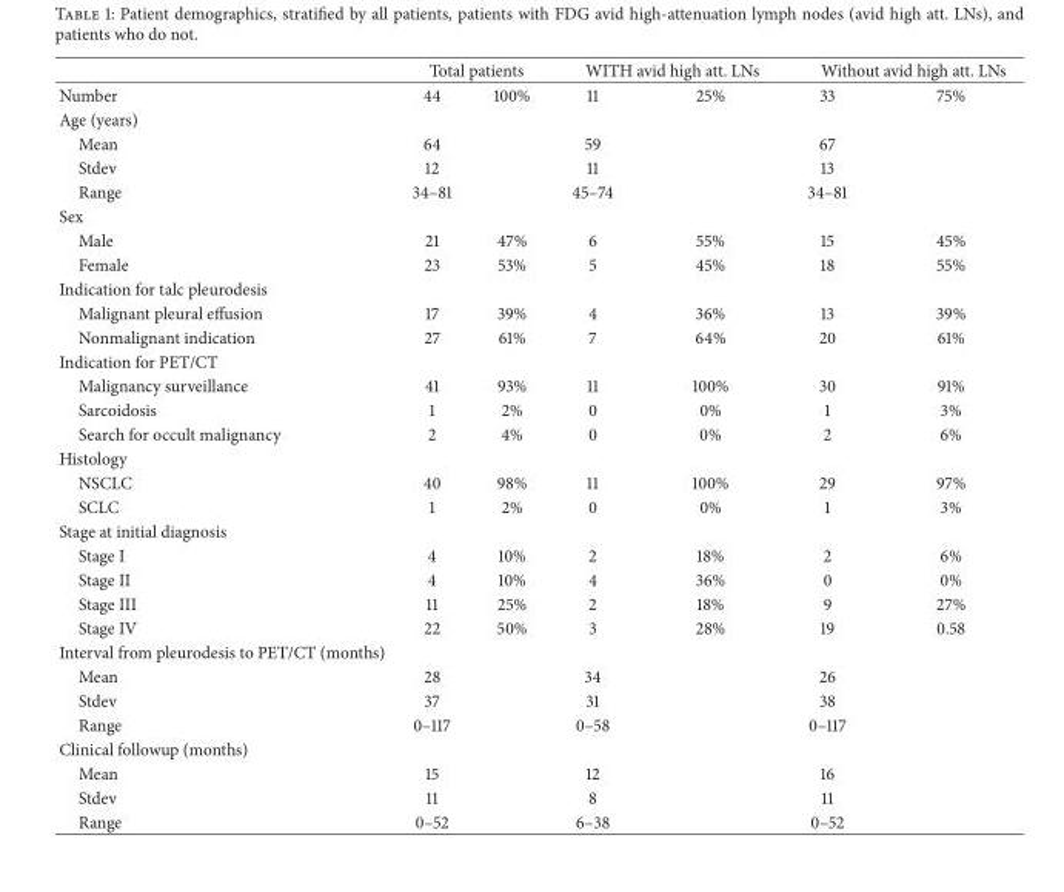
<table><thead><tr><td rowspan="2">Number</td><td colspan="2">Total patients</td><td colspan="2">WITH avid high att. LNs</td><td colspan="2">Without avid high att. LNs</td></tr><tr><td>44</td><td>100%</td><td>11</td><td>25%</td><td>33</td><td>75%</td></tr></thead><tbody><tr><td colspan="7">Age (years)</td></tr><tr><td>Mean</td><td>64</td><td></td><td>59</td><td></td><td>67</td><td></td></tr><tr><td>Stdev</td><td>12</td><td></td><td>11</td><td></td><td>13</td><td></td></tr><tr><td>Range</td><td>34–81</td><td></td><td>45–74</td><td></td><td>34–81</td><td></td></tr><tr><td colspan="7">Sex</td></tr><tr><td>Male</td><td>21</td><td>47%</td><td>6</td><td>55%</td><td>15</td><td>45%</td></tr><tr><td>Female</td><td>23</td><td>53%</td><td>5</td><td>45%</td><td>18</td><td>55%</td></tr><tr><td colspan="7">Indication for talc pleurodesis</td></tr><tr><td>Malignant pleural effusion</td><td>17</td><td>39%</td><td>4</td><td>36%</td><td>13</td><td>39%</td></tr><tr><td>Nonmalignant indication</td><td>27</td><td>61%</td><td>7</td><td>64%</td><td>20</td><td>61%</td></tr><tr><td colspan="7">Indication for PET/CT</td></tr><tr><td>Malignancy surveillance</td><td>41</td><td>93%</td><td>11</td><td>100%</td><td>30</td><td>91%</td></tr><tr><td>Sarcoidosis</td><td>1</td><td>2%</td><td>0</td><td>0%</td><td>1</td><td>3%</td></tr><tr><td>Search for occult malignancy</td><td>2</td><td>4%</td><td>0</td><td>0%</td><td>2</td><td>6%</td></tr><tr><td colspan="7">Histology</td></tr><tr><td>NSCLC</td><td>40</td><td>98%</td><td>11</td><td>100%</td><td>29</td><td>97%</td></tr><tr><td>SCLC</td><td>1</td><td>2%</td><td>0</td><td>0%</td><td>1</td><td>3%</td></tr><tr><td colspan="7">Stage at initial diagnosis</td></tr><tr><td>Stage I</td><td>4</td><td>10%</td><td>2</td><td>18%</td><td>2</td><td>6%</td></tr><tr><td>Stage II</td><td>4</td><td>10%</td><td>4</td><td>36%</td><td>0</td><td>0%</td></tr><tr><td>Stage III</td><td>11</td><td>25%</td><td>2</td><td>18%</td><td>9</td><td>27%</td></tr><tr><td>Stage IV</td><td>22</td><td>50%</td><td>3</td><td>28%</td><td>19</td><td>0.58</td></tr><tr><td colspan="7">Interval from pleurodesis to PET/CT (months)</td></tr><tr><td>Mean</td><td>28</td><td></td><td>34</td><td></td><td>26</td><td></td></tr><tr><td>Stdev</td><td>37</td><td></td><td>31</td><td></td><td>38</td><td></td></tr><tr><td>Range</td><td>0–117</td><td></td><td>0–58</td><td></td><td>0–117</td><td></td></tr><tr><td colspan="7">Clinical followup (months)</td></tr><tr><td>Mean</td><td>15</td><td></td><td>12</td><td></td><td>16</td><td></td></tr><tr><td>Stdev</td><td>11</td><td></td><td>8</td><td></td><td>11</td><td></td></tr><tr><td>Range</td><td>0–52</td><td></td><td>6–38</td><td></td><td>0–52</td><td></td></tr></tbody></table>